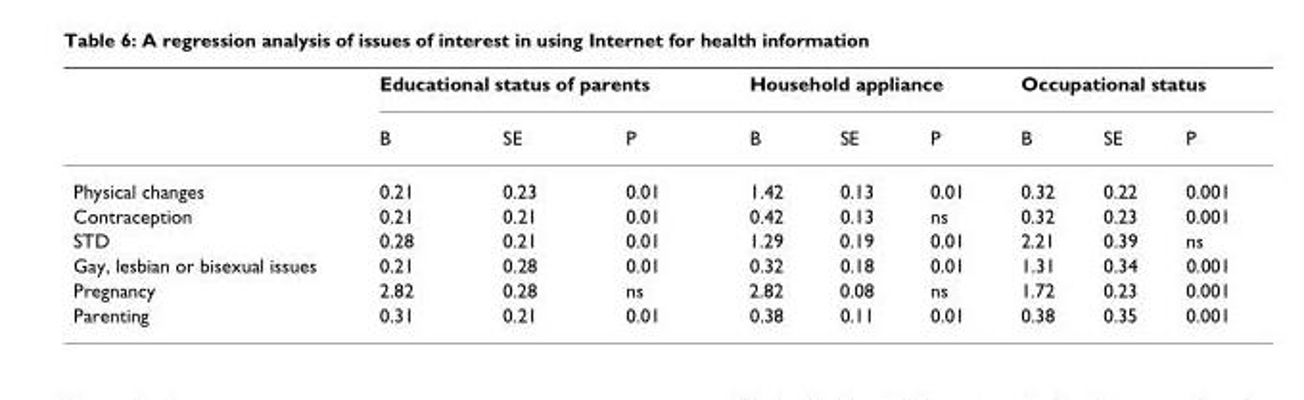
<table><thead><tr><td rowspan="2"></td><td colspan="3">Educational status of parents</td><td colspan="3">Household appliance</td><td colspan="3">Occupational status</td></tr><tr><td>B</td><td>SE</td><td>P</td><td>B</td><td>SE</td><td>P</td><td>B</td><td>SE</td><td>P</td></tr></thead><tbody><tr><td>Physical changes</td><td>0.21</td><td>0.23</td><td>0.01</td><td>1.42</td><td>0.13</td><td>0.01</td><td>0.32</td><td>0.22</td><td>0.001</td></tr><tr><td>Contraception</td><td>0.21</td><td>0.21</td><td>0.01</td><td>0.42</td><td>0.13</td><td>ns</td><td>0.32</td><td>0.23</td><td>0.001</td></tr><tr><td>STD</td><td>0.28</td><td>0.21</td><td>0.01</td><td>1.29</td><td>0.19</td><td>0.01</td><td>2.21</td><td>0.39</td><td>ns</td></tr><tr><td>Gay, lesbian or bisexual issues</td><td>0.21</td><td>0.28</td><td>0.01</td><td>0.32</td><td>0.18</td><td>0.01</td><td>1.31</td><td>0.34</td><td>0.001</td></tr><tr><td>Pregnancy</td><td>2.82</td><td>0.28</td><td>ns</td><td>2.82</td><td>0.08</td><td>ns</td><td>1.72</td><td>0.23</td><td>0.001</td></tr><tr><td>Parenting</td><td>0.31</td><td>0.21</td><td>0.01</td><td>0.38</td><td>0.11</td><td>0.01</td><td>0.38</td><td>0.35</td><td>0.001</td></tr></tbody></table>